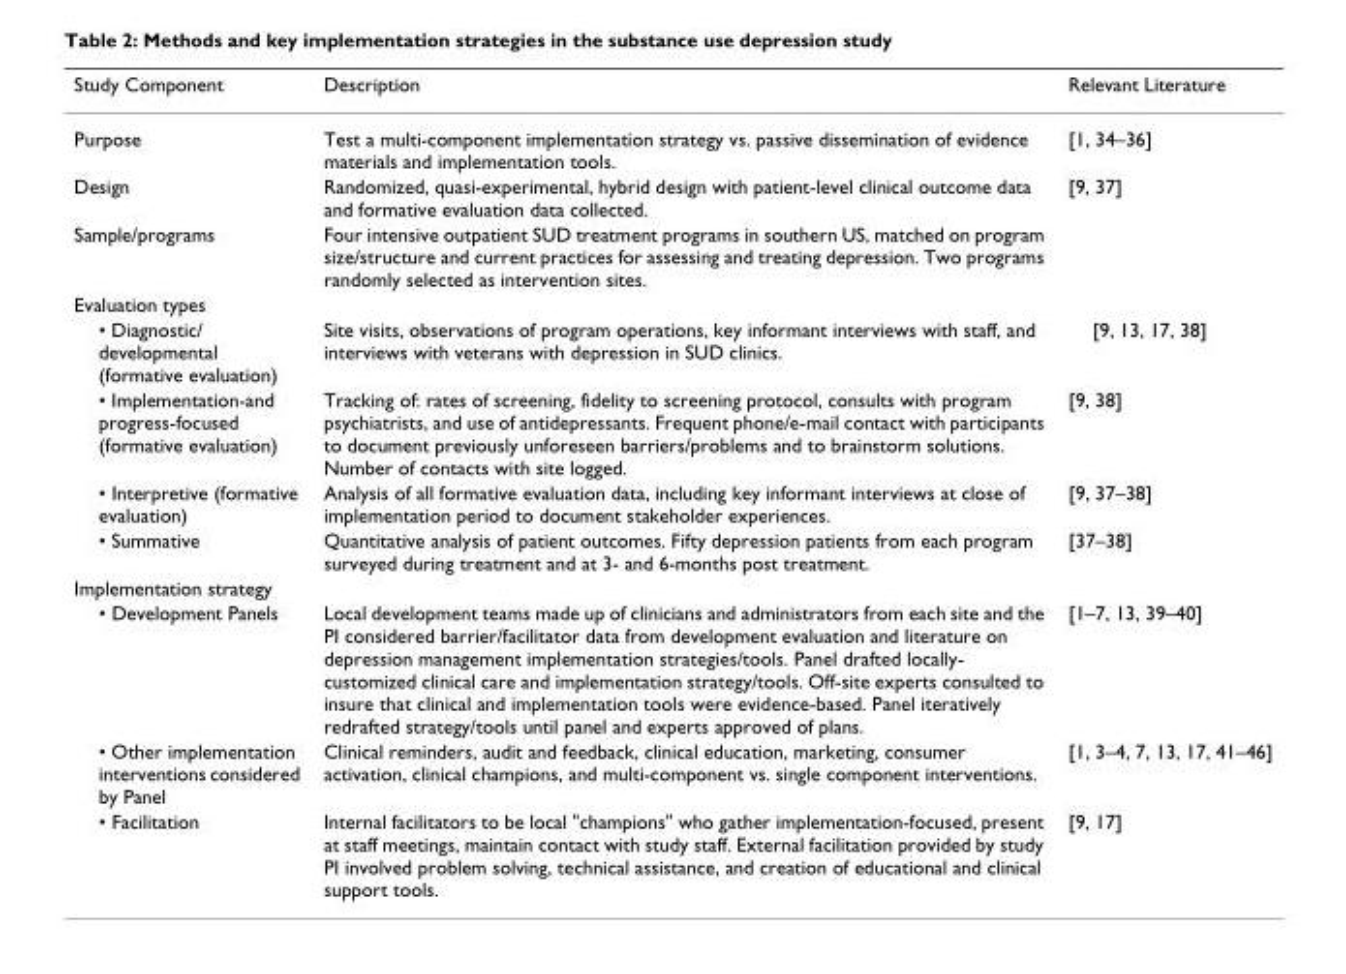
<table><thead><tr><td>Study Component</td><td>Description</td><td>Relevant Literature</td></tr></thead><tbody><tr><td>Purpose</td><td>Test a multi-component implementation strategy vs. passive dissemination of evidence materials and implementation tools.</td><td>[1, 34–36]</td></tr><tr><td>Design</td><td>Randomized, quasi-experimental, hybrid design with patient-level clinical outcome data and formative evaluation data collected.</td><td>[9, 37]</td></tr><tr><td>Sample/programs</td><td>Four intensive outpatient SUD treatment programs in southern US, matched on program size/structure and current practices for assessing and treating depression. Two programs randomly selected as intervention sites.</td><td></td></tr><tr><td colspan="3">Evaluation types</td></tr><tr><td>• Diagnostic/ developmental (formative evaluation)</td><td>Site visits, observations of program operations, key informant interviews with staff, and interviews with veterans with depression in SUD clinics.</td><td>[9, 13, 17, 38]</td></tr><tr><td>• Implementation-and progress-focused (formative evaluation)</td><td>Tracking of: rates of screening, fidelity to screening protocol, consults with program psychiatrists, and use of antidepressants. Frequent phone/e-mail contact with participants to document previously unforeseen barriers/problems and to brainstorm solutions. Number of contacts with site logged.</td><td>[9, 38]</td></tr><tr><td>• Interpretive (formative evaluation)</td><td>Analysis of all formative evaluation data, including key informant interviews at close of implementation period to document stakeholder experiences.</td><td>[9, 37–38]</td></tr><tr><td>• Summative</td><td>Quantitative analysis of patient outcomes. Fifty depression patients from each program surveyed during treatment and at 3- and 6-months post treatment.</td><td>[37–38]</td></tr><tr><td colspan="3">Implementation strategy</td></tr><tr><td>• Development Panels</td><td>Local development teams made up of clinicians and administrators from each site and the PI considered barrier/facilitator data from development evaluation and literature on depression management implementation strategies/tools. Panel drafted locally- customized clinical care and implementation strategy/tools. Off-site experts consulted to insure that clinical and implementation tools were evidence-based. Panel iteratively redrafted strategy/tools until panel and experts approved of plans.</td><td>[1–7, 13, 39–40]</td></tr><tr><td>• Other implementation interventions considered by Panel</td><td>Clinical reminders, audit and feedback, clinical education, marketing, consumer activation, clinical champions, and multi-component vs. single component interventions.</td><td>[1, 3–4, 7, 13, 17, 41–46]</td></tr><tr><td>• Facilitation</td><td>Internal facilitators to be local &quot;champions&quot; who gather implementation-focused, present at staff meetings, maintain contact with study staff. External facilitation provided by study PI involved problem solving, technical assistance, and creation of educational and clinical support tools.</td><td>[9, 17]</td></tr></tbody></table>